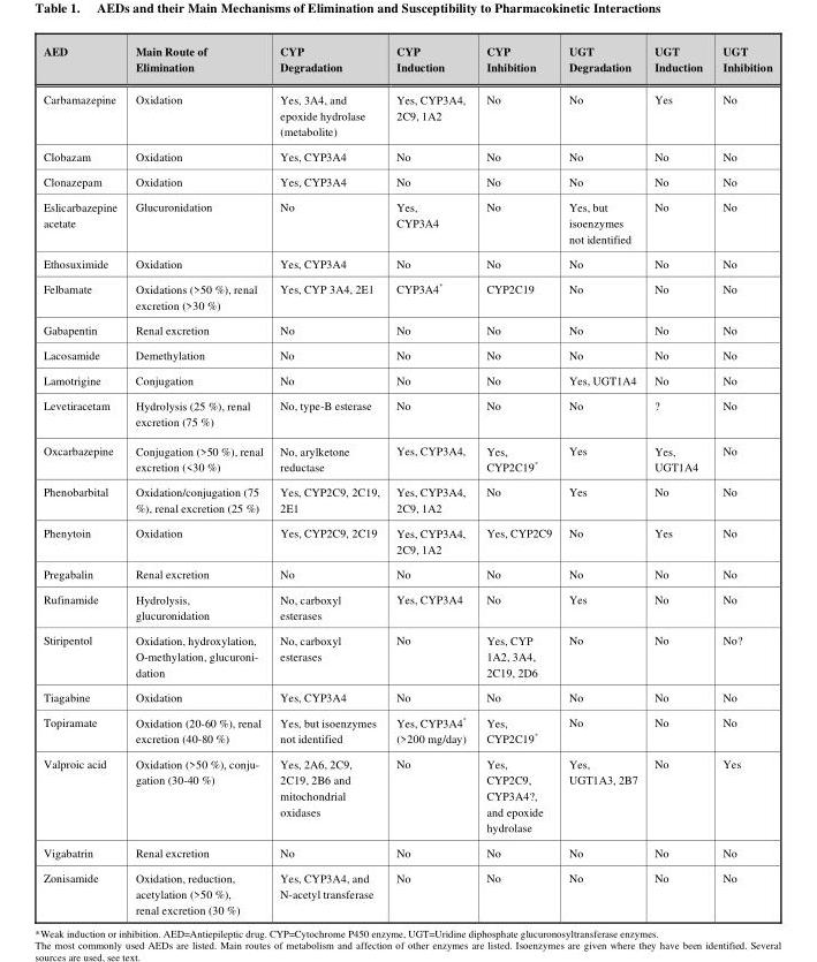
<table><thead><tr><td>AED</td><td>Main Route of Elimination</td><td>CYP Degradation</td><td>CYP Induction</td><td>CYP Inhibition</td><td>UGT Degradation</td><td>UGT Induction</td><td>UGT Inhibition</td></tr></thead><tbody><tr><td>Carbamazepine</td><td>Oxidation</td><td>Yes, 3A4, and epoxide hydrolase (metabolite)</td><td>Yes, CYP3A4, 2C9, 1A2</td><td>No</td><td>No</td><td>Yes</td><td>No</td></tr><tr><td>Clobazam</td><td>Oxidation</td><td>Yes, CYP3A4</td><td>No</td><td>No</td><td>No</td><td>No</td><td>No</td></tr><tr><td>Clonazepam</td><td>Oxidation</td><td>Yes, CYP3A4</td><td>No</td><td>No</td><td>No</td><td>No</td><td>No</td></tr><tr><td>Eslicarbazepine acetate</td><td>Glucuronidation</td><td>No</td><td>Yes, CYP3A4</td><td>No</td><td>Yes, but isoenzymes not identified</td><td>No</td><td>No</td></tr><tr><td>Ethosuximide</td><td>Oxidation</td><td>Yes, CYP3A4</td><td>No</td><td>No</td><td>No</td><td>No</td><td>No</td></tr><tr><td>Felbamate</td><td>Oxidations (&gt;50 %), renal excretion (&gt;30 %)</td><td>Yes, CYP 3A4, 2E1</td><td>CYP3A4*</td><td>CYP2C19</td><td>No</td><td>No</td><td>No</td></tr><tr><td>Gabapentin</td><td>Renal excretion</td><td>No</td><td>No</td><td>No</td><td>No</td><td>No</td><td>No</td></tr><tr><td>Lacosamide</td><td>Demethylation</td><td>No</td><td>No</td><td>No</td><td>No</td><td>No</td><td>No</td></tr><tr><td>Lamotrigine</td><td>Conjugation</td><td>No</td><td>No</td><td>No</td><td>Yes, UGT1A4</td><td>No</td><td>No</td></tr><tr><td>Levetiracetam</td><td>Hydrolysis (25 %), renal excretion (75 %)</td><td>No, type-B esterase</td><td>No</td><td>No</td><td>No</td><td>?</td><td>No</td></tr><tr><td>Oxcarbazepine</td><td>Conjugation (&gt;50 %), renal excretion (&lt;30 %)</td><td>No, arylketone reductase</td><td>Yes, CYP3A4,</td><td>Yes, CYP2C19*</td><td>Yes</td><td>Yes, UGT1A4</td><td>No</td></tr><tr><td>Phenobarbital</td><td>Oxidation/conjugation (75 %), renal excretion (25 %)</td><td>Yes, CYP2C9, 2C19, 2E1</td><td>Yes, CYP3A4, 2C9, 1A2</td><td>No</td><td>Yes</td><td>No</td><td>No</td></tr><tr><td>Phenytoin</td><td>Oxidation</td><td>Yes, CYP2C9, 2C19</td><td>Yes, CYP3A4, 2C9, 1A2</td><td>Yes, CYP2C9</td><td>No</td><td>Yes</td><td>No</td></tr><tr><td>Pregabalin</td><td>Renal excretion</td><td>No</td><td>No</td><td>No</td><td>No</td><td>No</td><td>No</td></tr><tr><td>Rufinamide</td><td>Hydrolysis, glucuronidation</td><td>No, carboxyl esterases</td><td>Yes, CYP3A4</td><td>No</td><td>Yes</td><td>No</td><td>No</td></tr><tr><td>Stiripentol</td><td>Oxidation, hydroxylation, O-methylation, glucuroni- dation</td><td>No, carboxyl esterases</td><td>No</td><td>Yes, CYP 1A2, 3A4, 2C19, 2D6</td><td>No</td><td>No</td><td>No?</td></tr><tr><td>Tiagabine</td><td>Oxidation</td><td>Yes, CYP3A4</td><td>No</td><td>No</td><td>No</td><td>No</td><td>No</td></tr><tr><td>Topiramate</td><td>Oxidation (20-60 %), renal excretion (40-80 %)</td><td>Yes, but isoenzymes not identified</td><td>Yes, CYP3A4* (&gt;200 mg/day)</td><td>Yes, CYP2C19*</td><td>No</td><td>No</td><td>No</td></tr><tr><td>Valproic acid</td><td>Oxidation (&gt;50 %), conju- gation (30-40 %)</td><td>Yes, 2A6, 2C9, 2C19, 2B6 and mitochondrial oxidases</td><td>No</td><td>Yes, CYP2C9, CYP3A4?, and epoxide hydrolase</td><td>Yes, UGT1A3, 2B7</td><td>No</td><td>Yes</td></tr><tr><td>Vigabatrin</td><td>Renal excretion</td><td>No</td><td>No</td><td>No</td><td>No</td><td>No</td><td>No</td></tr><tr><td>Zonisamide</td><td>Oxidation, reduction, acetylation (&gt;50 %), renal excretion (30 %)</td><td>Yes, CYP3A4, and N-acetyl transferase</td><td>No</td><td>No</td><td>No</td><td>No</td><td>No</td></tr></tbody></table>